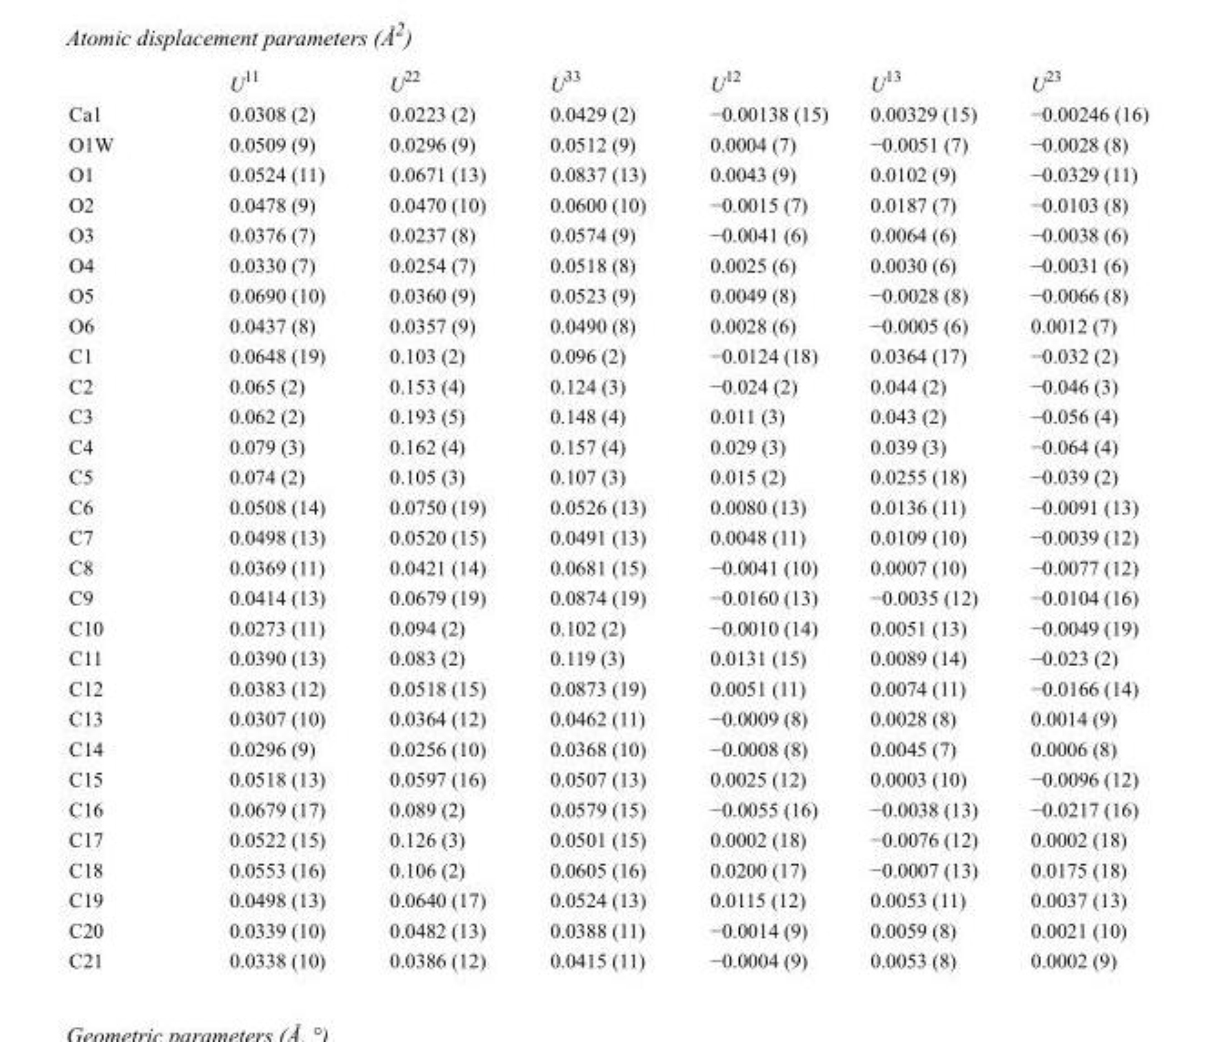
<table><thead><tr><td></td><td>U<sup>11</sup></td><td>U<sup>22</sup></td><td>U<sup>33</sup></td><td>U<sup>12</sup></td><td>U<sup>13</sup></td><td>U<sup>23</sup></td></tr></thead><tbody><tr><td>Ca1</td><td>0.0308 (2)</td><td>0.0223 (2)</td><td>0.0429 (2)</td><td>−0.00138 (15)</td><td>0.00329 (15)</td><td>−0.00246 (16)</td></tr><tr><td>O1W</td><td>0.0509 (9)</td><td>0.0296 (9)</td><td>0.0512 (9)</td><td>0.0004 (7)</td><td>−0.0051 (7)</td><td>−0.0028 (8)</td></tr><tr><td>O1</td><td>0.0524 (11)</td><td>0.0671 (13)</td><td>0.0837 (13)</td><td>0.0043 (9)</td><td>0.0102 (9)</td><td>−0.0329 (11)</td></tr><tr><td>O2</td><td>0.0478 (9)</td><td>0.0470 (10)</td><td>0.0600 (10)</td><td>−0.0015 (7)</td><td>0.0187 (7)</td><td>−0.0103 (8)</td></tr><tr><td>O3</td><td>0.0376 (7)</td><td>0.0237 (8)</td><td>0.0574 (9)</td><td>−0.0041 (6)</td><td>0.0064 (6)</td><td>−0.0038 (6)</td></tr><tr><td>O4</td><td>0.0330 (7)</td><td>0.0254 (7)</td><td>0.0518 (8)</td><td>0.0025 (6)</td><td>0.0030 (6)</td><td>−0.0031 (6)</td></tr><tr><td>O5</td><td>0.0690 (10)</td><td>0.0360 (9)</td><td>0.0523 (9)</td><td>0.0049 (8)</td><td>−0.0028 (8)</td><td>−0.0066 (8)</td></tr><tr><td>O6</td><td>0.0437 (8)</td><td>0.0357 (9)</td><td>0.0490 (8)</td><td>0.0028 (6)</td><td>−0.0005 (6)</td><td>0.0012 (7)</td></tr><tr><td>C1</td><td>0.0648 (19)</td><td>0.103 (2)</td><td>0.096 (2)</td><td>−0.0124 (18)</td><td>0.0364 (17)</td><td>−0.032 (2)</td></tr><tr><td>C2</td><td>0.065 (2)</td><td>0.153 (4)</td><td>0.124 (3)</td><td>−0.024 (2)</td><td>0.044 (2)</td><td>−0.046 (3)</td></tr><tr><td>C3</td><td>0.062 (2)</td><td>0.193 (5)</td><td>0.148 (4)</td><td>0.011 (3)</td><td>0.043 (2)</td><td>−0.056 (4)</td></tr><tr><td>C4</td><td>0.079 (3)</td><td>0.162 (4)</td><td>0.157 (4)</td><td>0.029 (3)</td><td>0.039 (3)</td><td>−0.064 (4)</td></tr><tr><td>C5</td><td>0.074 (2)</td><td>0.105 (3)</td><td>0.107 (3)</td><td>0.015 (2)</td><td>0.0255 (18)</td><td>−0.039 (2)</td></tr><tr><td>C6</td><td>0.0508 (14)</td><td>0.0750 (19)</td><td>0.0526 (13)</td><td>0.0080 (13)</td><td>0.0136 (11)</td><td>−0.0091 (13)</td></tr><tr><td>C7</td><td>0.0498 (13)</td><td>0.0520 (15)</td><td>0.0491 (13)</td><td>0.0048 (11)</td><td>0.0109 (10)</td><td>−0.0039 (12)</td></tr><tr><td>C8</td><td>0.0369 (11)</td><td>0.0421 (14)</td><td>0.0681 (15)</td><td>−0.0041 (10)</td><td>0.0007 (10)</td><td>−0.0077 (12)</td></tr><tr><td>C9</td><td>0.0414 (13)</td><td>0.0679 (19)</td><td>0.0874 (19)</td><td>−0.0160 (13)</td><td>−0.0035 (12)</td><td>−0.0104 (16)</td></tr><tr><td>C10</td><td>0.0273 (11)</td><td>0.094 (2)</td><td>0.102 (2)</td><td>−0.0010 (14)</td><td>0.0051 (13)</td><td>−0.0049 (19)</td></tr><tr><td>C11</td><td>0.0390 (13)</td><td>0.083 (2)</td><td>0.119 (3)</td><td>0.0131 (15)</td><td>0.0089 (14)</td><td>−0.023 (2)</td></tr><tr><td>C12</td><td>0.0383 (12)</td><td>0.0518 (15)</td><td>0.0873 (19)</td><td>0.0051 (11)</td><td>0.0074 (11)</td><td>−0.0166 (14)</td></tr><tr><td>C13</td><td>0.0307 (10)</td><td>0.0364 (12)</td><td>0.0462 (11)</td><td>−0.0009 (8)</td><td>0.0028 (8)</td><td>0.0014 (9)</td></tr><tr><td>C14</td><td>0.0296 (9)</td><td>0.0256 (10)</td><td>0.0368 (10)</td><td>−0.0008 (8)</td><td>0.0045 (7)</td><td>0.0006 (8)</td></tr><tr><td>C15</td><td>0.0518 (13)</td><td>0.0597 (16)</td><td>0.0507 (13)</td><td>0.0025 (12)</td><td>0.0003 (10)</td><td>−0.0096 (12)</td></tr><tr><td>C16</td><td>0.0679 (17)</td><td>0.089 (2)</td><td>0.0579 (15)</td><td>−0.0055 (16)</td><td>−0.0038 (13)</td><td>−0.0217 (16)</td></tr><tr><td>C17</td><td>0.0522 (15)</td><td>0.126 (3)</td><td>0.0501 (15)</td><td>0.0002 (18)</td><td>−0.0076 (12)</td><td>0.0002 (18)</td></tr><tr><td>C18</td><td>0.0553 (16)</td><td>0.106 (2)</td><td>0.0605 (16)</td><td>0.0200 (17)</td><td>−0.0007 (13)</td><td>0.0175 (18)</td></tr><tr><td>C19</td><td>0.0498 (13)</td><td>0.0640 (17)</td><td>0.0524 (13)</td><td>0.0115 (12)</td><td>0.0053 (11)</td><td>0.0037 (13)</td></tr><tr><td>C20</td><td>0.0339 (10)</td><td>0.0482 (13)</td><td>0.0388 (11)</td><td>−0.0014 (9)</td><td>0.0059 (8)</td><td>0.0021 (10)</td></tr><tr><td>C21</td><td>0.0338 (10)</td><td>0.0386 (12)</td><td>0.0415 (11)</td><td>−0.0004 (9)</td><td>0.0053 (8)</td><td>0.0002 (9)</td></tr></tbody></table>